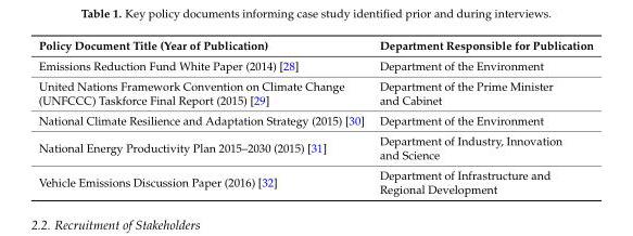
<table><thead><tr><td>Policy Document Title (Year of Publication)</td><td>Department Responsible for Publication</td></tr></thead><tbody><tr><td>Emissions Reduction Fund White Paper (2014) [28]</td><td>Department of the Environment</td></tr><tr><td>United Nations Framework Convention on Climate Change (UNFCCC) Taskforce Final Report (2015) [29]</td><td>Department of the Prime Minister and Cabinet</td></tr><tr><td>National Climate Resilience and Adaptation Strategy (2015) [30]</td><td>Department of the Environment</td></tr><tr><td>National Energy Productivity Plan 2015–2030 (2015) [31]</td><td>Department of Industry, Innovation and Science</td></tr><tr><td>Vehicle Emissions Discussion Paper (2016) [32]</td><td>Department of Infrastructure and Regional Development</td></tr></tbody></table>